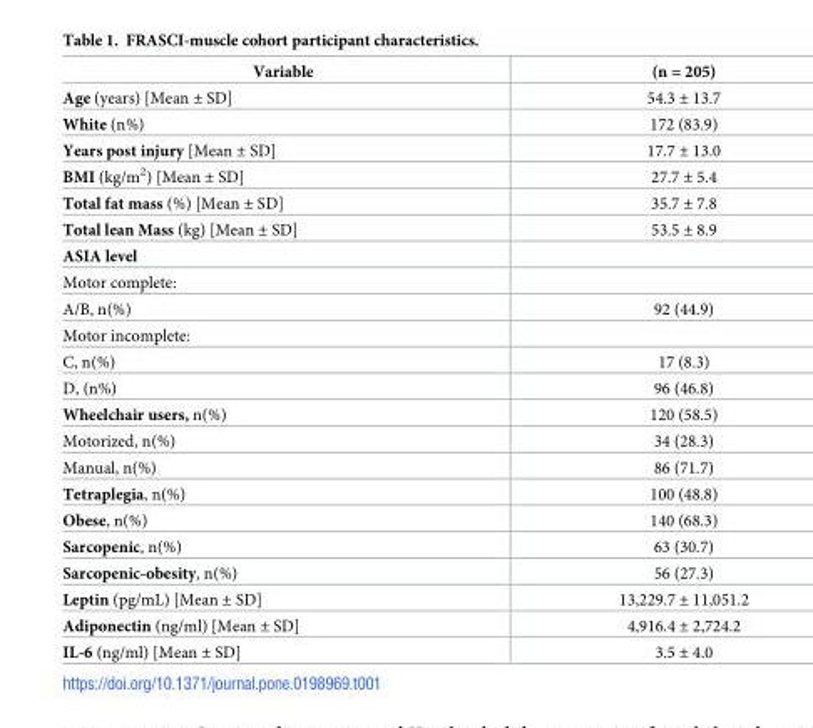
<table><thead><tr><td>Variable</td><td>(n = 205)</td></tr></thead><tbody><tr><td>Age (years) [Mean ± SD]</td><td>54.3 ± 13.7</td></tr><tr><td>White (n%)</td><td>172 (83.9)</td></tr><tr><td>Years post injury [Mean ± SD]</td><td>17.7 ± 13.0</td></tr><tr><td>BMI (kg/m<sup>2</sup>) [Mean ± SD]</td><td>27.7 ± 5.4</td></tr><tr><td>Total fat mass (%) [Mean ± SD]</td><td>35.7 ± 7.8</td></tr><tr><td>Total lean Mass (kg) [Mean ± SD]</td><td>53.5 ± 8.9</td></tr><tr><td colspan="2">ASIA level</td></tr><tr><td colspan="2">Motor complete:</td></tr><tr><td>A/B, n(%)</td><td>92 (44.9)</td></tr><tr><td colspan="2">Motor incomplete:</td></tr><tr><td>C, n(%)</td><td>17 (8.3)</td></tr><tr><td>D, (n%)</td><td>96 (46.8)</td></tr><tr><td>Wheelchair users, n(%)</td><td>120 (58.5)</td></tr><tr><td>Motorized, n(%)</td><td>34 (28.3)</td></tr><tr><td>Manual, n(%)</td><td>86 (71.7)</td></tr><tr><td>Tetraplegia, n(%)</td><td>100 (48.8)</td></tr><tr><td>Obese, n(%)</td><td>140 (68.3)</td></tr><tr><td>Sarcopenic, n(%)</td><td>63 (30.7)</td></tr><tr><td>Sarcopenic-obesity, n(%)</td><td>56 (27.3)</td></tr><tr><td>Leptin (pg/mL) [Mean ± SD]</td><td>13,229.7 ± 11,051.2</td></tr><tr><td>Adiponectin (ng/ml) [Mean ± SD]</td><td>4,916.4 ± 2,724.2</td></tr><tr><td>IL-6 (ng/ml) [Mean ± SD]</td><td>3.5 ± 4.0</td></tr></tbody></table>